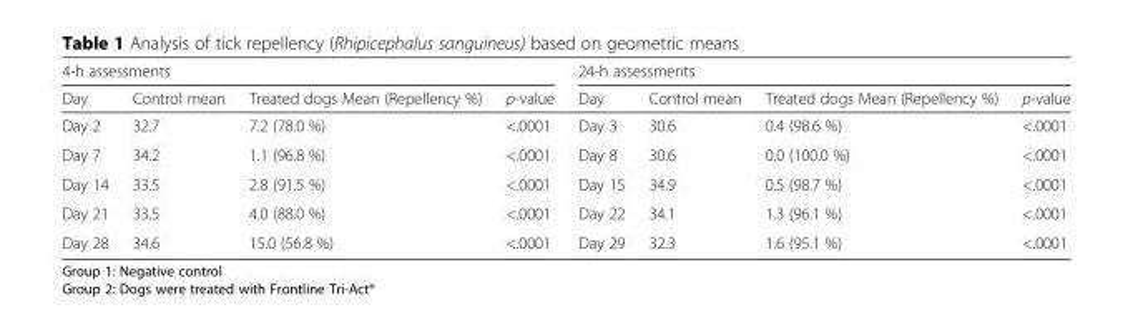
<table><thead><tr><td colspan="4">4-h assessments</td><td colspan="4">24-h assessments</td></tr><tr><td>Day</td><td>Control mean</td><td>Treated dogs Mean (Repellency %)</td><td>p-value</td><td>Day</td><td>Control mean</td><td>Treated dogs Mean (Repellency %)</td><td>p-value</td></tr></thead><tbody><tr><td>Day 2</td><td>32.7</td><td>7.2 (78.0 %)</td><td>&lt;.0001</td><td>Day 3</td><td>30.6</td><td>0.4 (98.6 %)</td><td>&lt;.0001</td></tr><tr><td>Day 7</td><td>34.2</td><td>1.1 (96.8 %)</td><td>&lt;.0001</td><td>Day 8</td><td>30.6</td><td>0.0 (100.0 %)</td><td>&lt;.0001</td></tr><tr><td>Day 14</td><td>33.5</td><td>2.8 (91.5 %)</td><td>&lt;.0001</td><td>Day 15</td><td>34.9</td><td>0.5 (98.7 %)</td><td>&lt;.0001</td></tr><tr><td>Day 21</td><td>33.5</td><td>4.0 (88.0 %)</td><td>&lt;.0001</td><td>Day 22</td><td>34.1</td><td>1.3 (96.1 %)</td><td>&lt;.0001</td></tr><tr><td>Day 28</td><td>34.6</td><td>15.0 (56.8 %)</td><td>&lt;.0001</td><td>Day 29</td><td>32.3</td><td>1.6 (95.1 %)</td><td>&lt;.0001</td></tr></tbody></table>